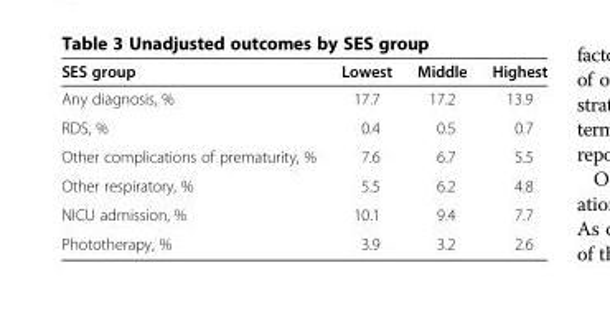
<table><thead><tr><td>SES group</td><td>Lowest</td><td>Middle</td><td>Highest</td></tr></thead><tbody><tr><td>Any diagnosis, %</td><td>17.7</td><td>17.2</td><td>13.9</td></tr><tr><td>RDS, %</td><td>0.4</td><td>0.5</td><td>0.7</td></tr><tr><td>Other complications of prematurity, %</td><td>7.6</td><td>6.7</td><td>5.5</td></tr><tr><td>Other respiratory, %</td><td>5.5</td><td>6.2</td><td>4.8</td></tr><tr><td>NICU admission, %</td><td>10.1</td><td>9.4</td><td>7.7</td></tr><tr><td>Phototherapy, %</td><td>3.9</td><td>3.2</td><td>2.6</td></tr></tbody></table>